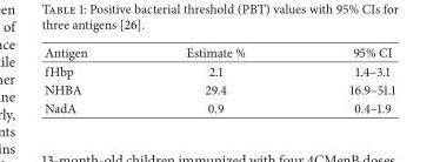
<table><thead><tr><td>Antigen</td><td>Estimate %</td><td>95% CI</td></tr></thead><tbody><tr><td>fHbp</td><td>2.1</td><td>1.4–3.1</td></tr><tr><td>NHBA</td><td>29.4</td><td>16.9–51.1</td></tr><tr><td>NadA</td><td>0.9</td><td>0.4–1.9</td></tr></tbody></table>